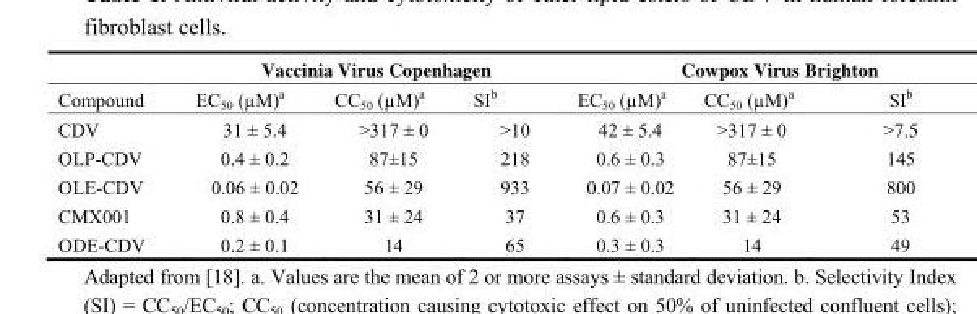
<table><thead><tr><td rowspan="2">Compound</td><td colspan="3">Vaccinia Virus Copenhagen</td><td colspan="3">Cowpox Virus Brighton</td></tr><tr><td>EC<sub>50</sub> (µM)<sup>a</sup></td><td>CC<sub>50</sub> (µM)<sup>a</sup></td><td>SI<sup>b</sup></td><td>EC<sub>50</sub> (µM)<sup>a</sup></td><td>CC<sub>50</sub> (µM)<sup>a</sup></td><td>SI<sup>b</sup></td></tr></thead><tbody><tr><td>CDV</td><td>31 ± 5.4</td><td>&gt;317 ± 0</td><td>&gt;10</td><td>42 ± 5.4</td><td>&gt;317 ± 0</td><td>&gt;7.5</td></tr><tr><td>OLP-CDV</td><td>0.4 ± 0.2</td><td>87±15</td><td>218</td><td>0.6 ± 0.3</td><td>87±15</td><td>145</td></tr><tr><td>OLE-CDV</td><td>0.06 ± 0.02</td><td>56 ± 29</td><td>933</td><td>0.07 ± 0.02</td><td>56 ± 29</td><td>800</td></tr><tr><td>CMX001</td><td>0.8 ± 0.4</td><td>31 ± 24</td><td>37</td><td>0.6 ± 0.3</td><td>31 ± 24</td><td>53</td></tr><tr><td>ODE-CDV</td><td>0.2 ± 0.1</td><td>14</td><td>65</td><td>0.3 ± 0.3</td><td>14</td><td>49</td></tr></tbody></table>